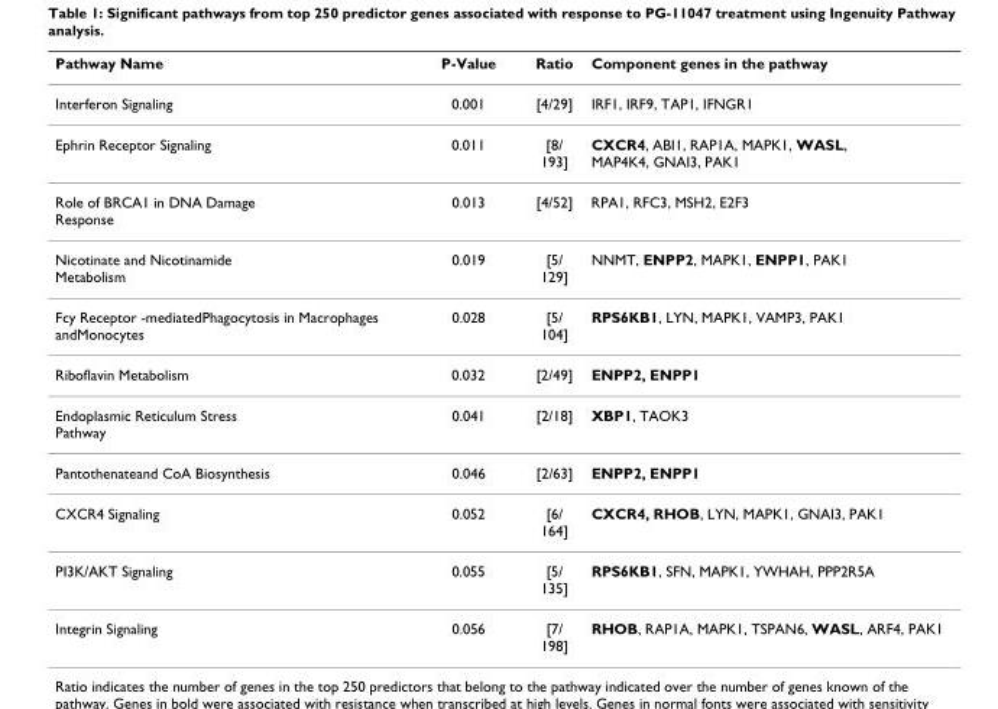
<table><thead><tr><td>Pathway Name</td><td>P-Value</td><td>Ratio</td><td>Component genes in the pathway</td></tr></thead><tbody><tr><td>Interferon Signaling</td><td>0.001</td><td>[4/29]</td><td>IRF1, IRF9, TAP1, IFNGR1</td></tr><tr><td>Ephrin Receptor Signaling</td><td>0.011</td><td>[8/ 193]</td><td>CXCR4, ABI1, RAP1A, MAPK1, WASL, MAP4K4, GNAI3, PAK1</td></tr><tr><td>Role of BRCA1 in DNA Damage Response</td><td>0.013</td><td>[4/52]</td><td>RPA1, RFC3, MSH2, E2F3</td></tr><tr><td>Nicotinate and Nicotinamide Metabolism</td><td>0.019</td><td>[5/ 129]</td><td>NNMT, ENPP2, MAPK1, ENPP1, PAK1</td></tr><tr><td>Fcy Receptor -mediatedPhagocytosis in Macrophages andMonocytes</td><td>0.028</td><td>[5/ 104]</td><td>RPS6KB1, LYN, MAPK1, VAMP3, PAK1</td></tr><tr><td>Riboflavin Metabolism</td><td>0.032</td><td>[2/49]</td><td>ENPP2, ENPP1</td></tr><tr><td>Endoplasmic Reticulum Stress Pathway</td><td>0.041</td><td>[2/18]</td><td>XBP1, TAOK3</td></tr><tr><td>Pantothenateand CoA Biosynthesis</td><td>0.046</td><td>[2/63]</td><td>ENPP2, ENPP1</td></tr><tr><td>CXCR4 Signaling</td><td>0.052</td><td>[6/ 164]</td><td>CXCR4, RHOB, LYN, MAPK1, GNAI3, PAK1</td></tr><tr><td>PI3K/AKT Signaling</td><td>0.055</td><td>[5/ 135]</td><td>RPS6KB1, SFN, MAPK1, YWHAH, PPP2R5A</td></tr><tr><td>Integrin Signaling</td><td>0.056</td><td>[7/ 198]</td><td>RHOB, RAP1A, MAPK1, TSPAN6, WASL, ARF4, PAK1</td></tr></tbody></table>